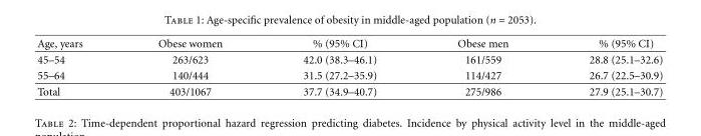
<table><thead><tr><td>Age, years</td><td>Obese women</td><td>% (95% CI)</td><td>Obese men</td><td>% (95% CI)</td></tr></thead><tbody><tr><td>45–54</td><td>263/623</td><td>42.0 (38.3–46.1)</td><td>161/559</td><td>28.8 (25.1–32.6)</td></tr><tr><td>55–64</td><td>140/444</td><td>31.5 (27.2–35.9)</td><td>114/427</td><td>26.7 (22.5–30.9)</td></tr><tr><td>Total</td><td>403/1067</td><td>37.7 (34.9–40.7)</td><td>275/986</td><td>27.9 (25.1–30.7)</td></tr></tbody></table>